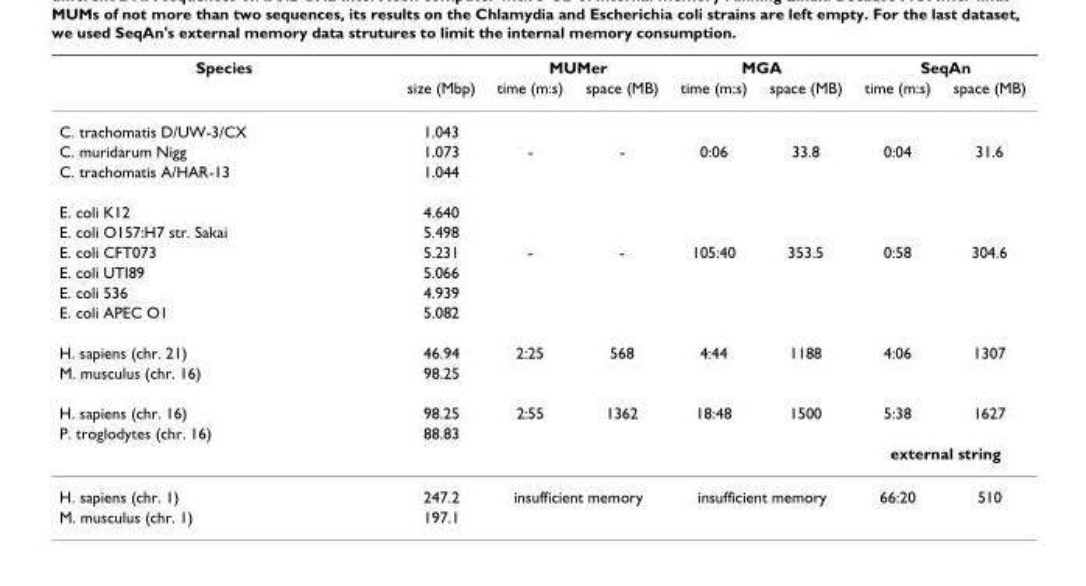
<table><thead><tr><td rowspan="2">Species</td><td rowspan="2">size (Mbp)</td><td colspan="2">MUMer</td><td colspan="2">MGA</td><td colspan="2">SeqAn</td></tr><tr><td>time (m:s)</td><td>space (MB)</td><td>time (m:s)</td><td>space (MB)</td><td>time (m:s)</td><td>space (MB)</td></tr></thead><tbody><tr><td>C. trachomatis D/UW-3/CX</td><td>1.043</td><td></td><td></td><td></td><td></td><td></td><td></td></tr><tr><td>C. muridarum Nigg</td><td>1.073</td><td>-</td><td>-</td><td>0:06</td><td>33.8</td><td>0:04</td><td>31.6</td></tr><tr><td>C. trachomatis A/HAR-13</td><td>1.044</td><td></td><td></td><td></td><td></td><td></td><td></td></tr><tr><td>E. coli K12</td><td>4.640</td><td></td><td></td><td></td><td></td><td></td><td></td></tr><tr><td>E. coli O157:H7 str. Sakai</td><td>5.498</td><td></td><td></td><td></td><td></td><td></td><td></td></tr><tr><td>E. coli CFT073</td><td>5.231</td><td>-</td><td>-</td><td>105:40</td><td>353.5</td><td>0:58</td><td>304.6</td></tr><tr><td>E. coli UTI89</td><td>5.066</td><td></td><td></td><td></td><td></td><td></td><td></td></tr><tr><td>E. coli 536</td><td>4.939</td><td></td><td></td><td></td><td></td><td></td><td></td></tr><tr><td>E. coli APEC O1</td><td>5.082</td><td></td><td></td><td></td><td></td><td></td><td></td></tr><tr><td>H. sapiens (chr. 21)</td><td>46.94</td><td>2:25</td><td>568</td><td>4:44</td><td>1188</td><td>4:06</td><td>1307</td></tr><tr><td>M. musculus (chr. 16)</td><td>98.25</td><td></td><td></td><td></td><td></td><td></td><td></td></tr><tr><td>H. sapiens (chr. 16)</td><td>98.25</td><td>2:55</td><td>1362</td><td>18:48</td><td>1500</td><td>5:38</td><td>1627</td></tr><tr><td rowspan="2">P. troglodytes (chr. 16)</td><td>88.83</td><td></td><td></td><td></td><td></td><td></td><td></td></tr><tr><td></td><td></td><td></td><td></td><td></td><td colspan="2">external string</td></tr><tr><td>H. sapiens (chr. 1)</td><td>247.2</td><td colspan="2">insufficient memory</td><td colspan="2">insufficient memory</td><td>66:20</td><td>510</td></tr><tr><td>M. musculus (chr. 1)</td><td>197.1</td><td></td><td></td><td></td><td></td><td></td><td></td></tr></tbody></table>